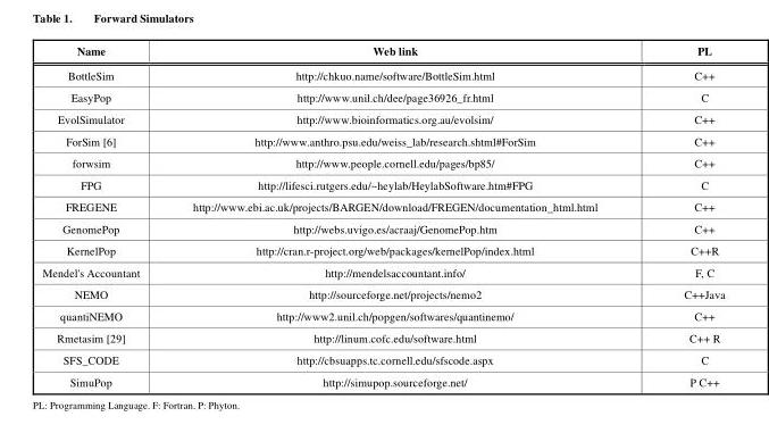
<table><thead><tr><td>Name</td><td>Web link</td><td>PL</td></tr></thead><tbody><tr><td>BottleSim</td><td>http://chkuo.name/software/BottleSim.html</td><td>C++</td></tr><tr><td>EasyPop</td><td>http://www.unil.ch/dee/page36926_fr.html</td><td>C</td></tr><tr><td>EvolSimulator</td><td>http://www.bioinformatics.org.au/evolsim/</td><td>C++</td></tr><tr><td>ForSim [6]</td><td>http://www.anthro.psu.edu/weiss_lab/research.shtml#ForSim</td><td>C++</td></tr><tr><td>forwsim</td><td>http://www.people.cornell.edu/pages/bp85/</td><td>C++</td></tr><tr><td>FPG</td><td>http://lifesci.rutgers.edu/~heylab/HeylabSoftware.htm#FPG</td><td>C</td></tr><tr><td>FREGENE</td><td>http://www.ebi.ac.uk/projects/BARGEN/download/FREGEN/documentation_html.html</td><td>C++</td></tr><tr><td>GenomePop</td><td>http://webs.uvigo.es/acraaj/GenomePop.htm</td><td>C++</td></tr><tr><td>KernelPop</td><td>http://cran.r-project.org/web/packages/kernelPop/index.html</td><td>C++R</td></tr><tr><td>Mendel&#x27;s Accountant</td><td>http://mendelsaccountant.info/</td><td>F, C</td></tr><tr><td>NEMO</td><td>http://sourceforge.net/projects/nemo2</td><td>C++Java</td></tr><tr><td>quantiNEMO</td><td>http://www2.unil.ch/popgen/softwares/quantinemo/</td><td>C++</td></tr><tr><td>Rmetasim [29]</td><td>http://linum.cofc.edu/software.html</td><td>C++ R</td></tr><tr><td>SFS_CODE</td><td>http://cbsuapps.tc.cornell.edu/sfscode.aspx</td><td>C</td></tr><tr><td>SimuPop</td><td>http://simupop.sourceforge.net/</td><td>P C++</td></tr></tbody></table>